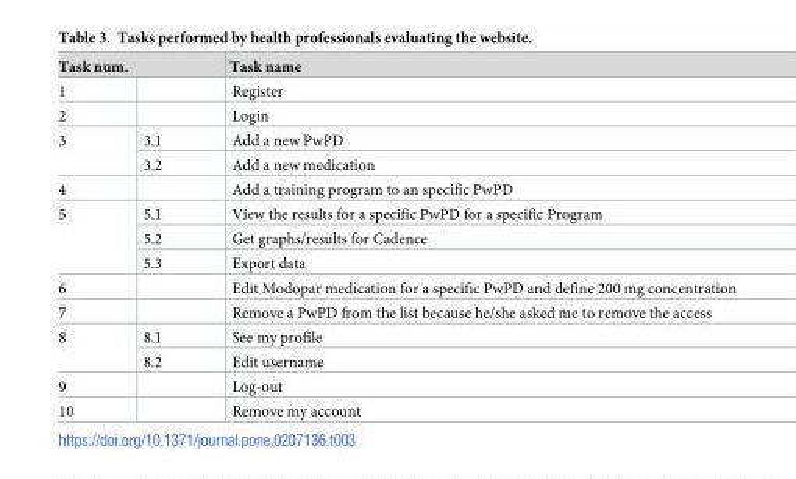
<table><thead><tr><td colspan="2">Task num.</td><td rowspan="2">Task name Register</td></tr><tr><td>1</td><td></td></tr></thead><tbody><tr><td>2</td><td></td><td>Login</td></tr><tr><td rowspan="2">3</td><td>3.1</td><td>Add a new PwPD</td></tr><tr><td>3.2</td><td>Add a new medication</td></tr><tr><td>4</td><td></td><td>Add a training program to an specific PwPD</td></tr><tr><td rowspan="3">5</td><td>5.1</td><td>View the results for a specific PwPD for a specific Program</td></tr><tr><td>5.2</td><td>Get graphs/results for Cadence</td></tr><tr><td>5.3</td><td>Export data</td></tr><tr><td>6</td><td></td><td>Edit Modopar medication for a specific PwPD and define 200 mg concentration</td></tr><tr><td>7</td><td></td><td>Remove a PwPD from the list because he/she asked me to remove the access</td></tr><tr><td rowspan="2">8</td><td>8.1</td><td>See my profile</td></tr><tr><td>8.2</td><td>Edit username</td></tr><tr><td>9</td><td></td><td>Log-out</td></tr><tr><td>10</td><td></td><td>Remove my account</td></tr></tbody></table>